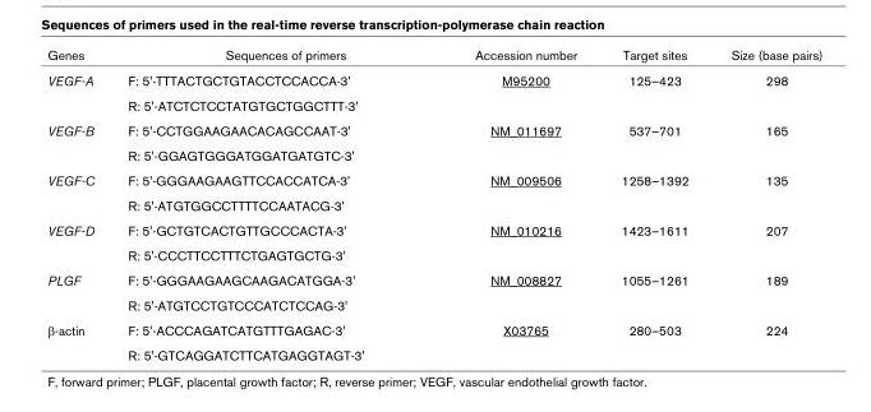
<table><thead><tr><td>Genes</td><td>Sequences of primers</td><td>Accession number</td><td>Target sites</td><td>Size (base pairs)</td></tr></thead><tbody><tr><td rowspan="2">VEGF-A</td><td>F: 5&#x27;-TTTACTGCTGTACCTCCACCA-3&#x27;</td><td>M95200</td><td>125–423</td><td>298</td></tr><tr><td>R: 5&#x27;-ATCTCTCCTATGTGCTGGCTTT-3&#x27;</td><td></td><td></td><td></td></tr><tr><td rowspan="2">VEGF-B</td><td>F: 5&#x27;-CCTGGAAGAACACAGCCAAT-3&#x27;</td><td>NM_011697</td><td>537–701</td><td>165</td></tr><tr><td>R: 5&#x27;-GGAGTGGGATGGATGATGTC-3&#x27;</td><td></td><td></td><td></td></tr><tr><td rowspan="2">VEGF-C</td><td>F: 5&#x27;-GGGAAGAAGTTCCACCATCA-3&#x27;</td><td>NM_009506</td><td>1258–1392</td><td>135</td></tr><tr><td>R: 5&#x27;-ATGTGGCCTTTTCCAATACG-3&#x27;</td><td></td><td></td><td></td></tr><tr><td rowspan="2">VEGF-D</td><td>F: 5&#x27;-GCTGTCACTGTTGCCCACTA-3&#x27;</td><td>NM_010216</td><td>1423–1611</td><td>207</td></tr><tr><td>R: 5&#x27;-CCCTTCCTTTCTGAGTGCTG-3&#x27;</td><td></td><td></td><td></td></tr><tr><td rowspan="2">PLGF</td><td>F: 5&#x27;-GGGAAGAAGCAAGACATGGA-3&#x27;</td><td>NM_008827</td><td>1055–1261</td><td>189</td></tr><tr><td>R: 5&#x27;-ATGTCCTGTCCCATCTCCAG-3&#x27;</td><td></td><td></td><td></td></tr><tr><td rowspan="2">β-actin</td><td>F: 5&#x27;-ACCCAGATCATGTTTGAGAC-3&#x27;</td><td>X03765</td><td>280–503</td><td>224</td></tr><tr><td>R: 5&#x27;-GTCAGGATCTTCATGAGGTAGT-3&#x27;</td><td></td><td></td><td></td></tr></tbody></table>